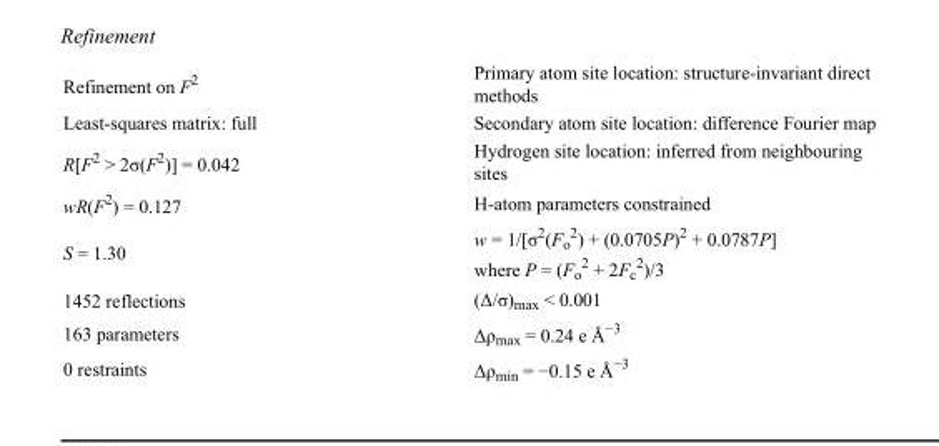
<table><tbody><tr><td>Refinement on F<sup>2</sup></td><td>Primary atom site location: structure-invariant direct methods</td></tr><tr><td>Least-squares matrix: full</td><td>Secondary atom site location: difference Fourier map</td></tr><tr><td>R[F<sup>2</sup> &gt; 2σ(F<sup>2</sup>)] = 0.042</td><td>Hydrogen site location: inferred from neighbouring sites</td></tr><tr><td>wR(F<sup>2</sup>) = 0.127</td><td>H-atom parameters constrained</td></tr><tr><td>S = 1.30</td><td>w = 1/[σ<sup>2</sup>(F<sub>o</sub> <sup>2</sup>) + (0.0705P)<sup>2</sup> + 0.0787P] where P = (F<sub>o</sub> <sup>2</sup> + 2F<sub>c</sub> <sup>2</sup>)/3</td></tr><tr><td>1452 reflections</td><td>(Δ/σ)<sub>max</sub> &lt; 0.001</td></tr><tr><td>163 parameters</td><td>Δρ<sub>max</sub> = 0.24 e Å<sup>−3</sup></td></tr><tr><td>0 restraints</td><td>Δρ<sub>min</sub> = −0.15 e Å<sup>−3</sup></td></tr></tbody></table>